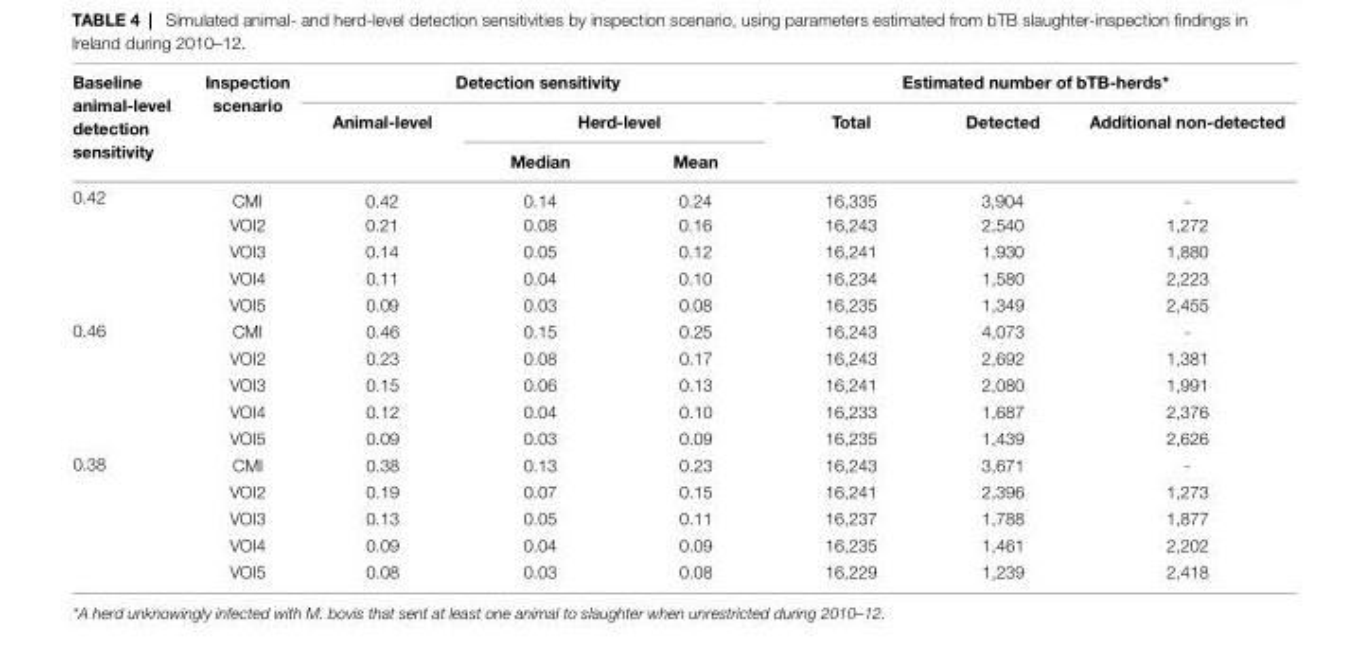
<table><thead><tr><td rowspan="3">Baseline animal-level detection sensitivity</td><td rowspan="3">inspection scenario</td><td colspan="3">detection sensitivity</td><td colspan="3">estimated number of bTB-herds*</td></tr><tr><td rowspan="2">animal-level</td><td colspan="2">herd-level</td><td rowspan="2">Total</td><td rowspan="2">detected</td><td rowspan="2">additional non-detected</td></tr><tr><td>Median</td><td>Mean</td></tr></thead><tbody><tr><td rowspan="5">0.42</td><td>CMI</td><td>0.42</td><td>0.14</td><td>0.24</td><td>16,335</td><td>3,904</td><td>-</td></tr><tr><td>VOI2</td><td>0.21</td><td>0.08</td><td>0.16</td><td>16,243</td><td>2,540</td><td>1,272</td></tr><tr><td>VOI3</td><td>0.14</td><td>0.05</td><td>0.12</td><td>16,241</td><td>1,930</td><td>1,880</td></tr><tr><td>VOI4</td><td>0.11</td><td>0.04</td><td>0.10</td><td>16,234</td><td>1,580</td><td>2,223</td></tr><tr><td>VOI5</td><td>0.09</td><td>0.03</td><td>0.08</td><td>16,235</td><td>1,349</td><td>2,455</td></tr><tr><td rowspan="5">0.46</td><td>CMI</td><td>0.46</td><td>0.15</td><td>0.25</td><td>16,243</td><td>4,073</td><td>-</td></tr><tr><td>VOI2</td><td>0.23</td><td>0.08</td><td>0.17</td><td>16,243</td><td>2,692</td><td>1,381</td></tr><tr><td>VOI3</td><td>0.15</td><td>0.06</td><td>0.13</td><td>16,241</td><td>2,080</td><td>1,991</td></tr><tr><td>VOI4</td><td>0.12</td><td>0.04</td><td>0.10</td><td>16,233</td><td>1,687</td><td>2,376</td></tr><tr><td>VOI5</td><td>0.09</td><td>0.03</td><td>0.09</td><td>16,235</td><td>1,439</td><td>2,626</td></tr><tr><td rowspan="5">0.38</td><td>CMI</td><td>0.38</td><td>0.13</td><td>0.23</td><td>16,243</td><td>3,671</td><td>-</td></tr><tr><td>VOI2</td><td>0.19</td><td>0.07</td><td>0.15</td><td>16,241</td><td>2,396</td><td>1,273</td></tr><tr><td>VOI3</td><td>0.13</td><td>0.05</td><td>0.11</td><td>16,237</td><td>1,788</td><td>1,877</td></tr><tr><td>VOI4</td><td>0.09</td><td>0.04</td><td>0.09</td><td>16,235</td><td>1,461</td><td>2,202</td></tr><tr><td>VOI5</td><td>0.08</td><td>0.03</td><td>0.08</td><td>16,229</td><td>1,239</td><td>2,418</td></tr></tbody></table>